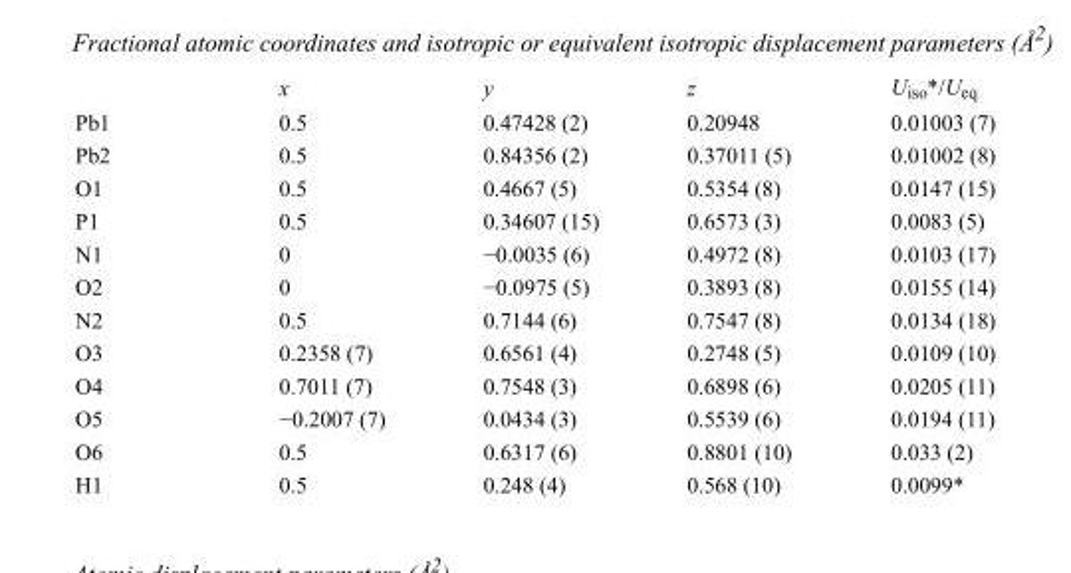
<table><thead><tr><td></td><td>x</td><td>y</td><td>z</td><td>U<sub>iso</sub>*/U<sub>eq</sub></td></tr></thead><tbody><tr><td>Pb1</td><td>0.5</td><td>0.47428 (2)</td><td>0.20948</td><td>0.01003 (7)</td></tr><tr><td>Pb2</td><td>0.5</td><td>0.84356 (2)</td><td>0.37011 (5)</td><td>0.01002 (8)</td></tr><tr><td>O1</td><td>0.5</td><td>0.4667 (5)</td><td>0.5354 (8)</td><td>0.0147 (15)</td></tr><tr><td>P1</td><td>0.5</td><td>0.34607 (15)</td><td>0.6573 (3)</td><td>0.0083 (5)</td></tr><tr><td>N1</td><td>0</td><td>−0.0035 (6)</td><td>0.4972 (8)</td><td>0.0103 (17)</td></tr><tr><td>O2</td><td>0</td><td>−0.0975 (5)</td><td>0.3893 (8)</td><td>0.0155 (14)</td></tr><tr><td>N2</td><td>0.5</td><td>0.7144 (6)</td><td>0.7547 (8)</td><td>0.0134 (18)</td></tr><tr><td>O3</td><td>0.2358 (7)</td><td>0.6561 (4)</td><td>0.2748 (5)</td><td>0.0109 (10)</td></tr><tr><td>O4</td><td>0.7011 (7)</td><td>0.7548 (3)</td><td>0.6898 (6)</td><td>0.0205 (11)</td></tr><tr><td>O5</td><td>−0.2007 (7)</td><td>0.0434 (3)</td><td>0.5539 (6)</td><td>0.0194 (11)</td></tr><tr><td>O6</td><td>0.5</td><td>0.6317 (6)</td><td>0.8801 (10)</td><td>0.033 (2)</td></tr><tr><td>H1</td><td>0.5</td><td>0.248 (4)</td><td>0.568 (10)</td><td>0.0099*</td></tr></tbody></table>